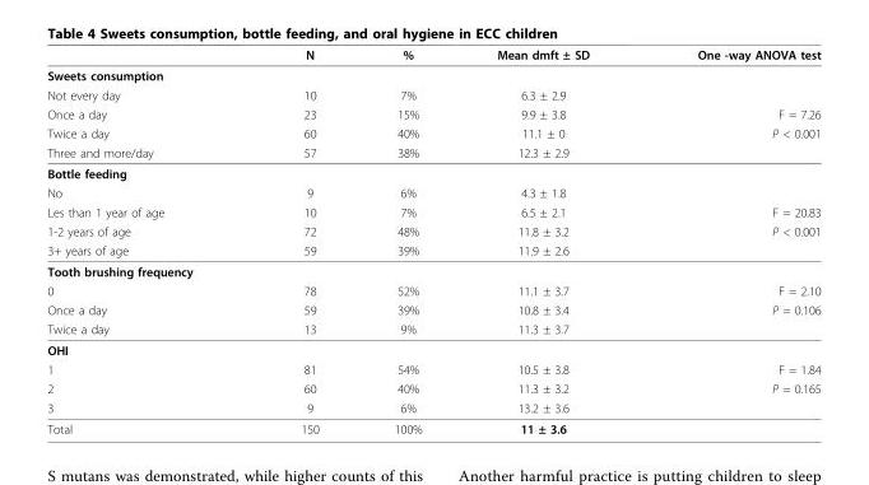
<table><thead><tr><td></td><td>N</td><td>%</td><td>Mean dmft ± SD</td><td>One -way ANOVA test</td></tr></thead><tbody><tr><td colspan="5">Sweets consumption</td></tr><tr><td>Not every day</td><td>10</td><td>7%</td><td>6.3 ± 2.9</td><td></td></tr><tr><td>Once a day</td><td>23</td><td>15%</td><td>9.9 ± 3.8</td><td>F = 7.26</td></tr><tr><td>Twice a day</td><td>60</td><td>40%</td><td>11.1 ± 0</td><td>P &lt; 0.001</td></tr><tr><td>Three and more/day</td><td>57</td><td>38%</td><td>12.3 ± 2.9</td><td></td></tr><tr><td colspan="5">Bottle feeding</td></tr><tr><td>No</td><td>9</td><td>6%</td><td>4.3 ± 1.8</td><td></td></tr><tr><td>Les than 1 year of age</td><td>10</td><td>7%</td><td>6.5 ± 2.1</td><td>F = 20.83</td></tr><tr><td>1-2 years of age</td><td>72</td><td>48%</td><td>11.8 ± 3.2</td><td>P &lt; 0.001</td></tr><tr><td>3+ years of age</td><td>59</td><td>39%</td><td>11.9 ± 2.6</td><td></td></tr><tr><td colspan="5">Tooth brushing frequency</td></tr><tr><td>0</td><td>78</td><td>52%</td><td>11.1 ± 3.7</td><td>F = 2.10</td></tr><tr><td>Once a day</td><td>59</td><td>39%</td><td>10.8 ± 3.4</td><td>P = 0.106</td></tr><tr><td>Twice a day</td><td>13</td><td>9%</td><td>11.3 ± 3.7</td><td></td></tr><tr><td colspan="5">OHI</td></tr><tr><td>1</td><td>81</td><td>54%</td><td>10.5 ± 3.8</td><td>F = 1.84</td></tr><tr><td>2</td><td>60</td><td>40%</td><td>11.3 ± 3.2</td><td>P = 0.165</td></tr><tr><td>3</td><td>9</td><td>6%</td><td>13.2 ± 3.6</td><td></td></tr><tr><td>Total</td><td>150</td><td>100%</td><td>11 ± 3.6</td><td></td></tr></tbody></table>